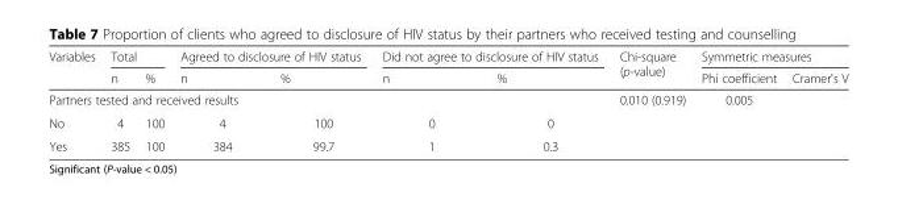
<table><thead><tr><td rowspan="2">Variables</td><td colspan="2">Total</td><td colspan="2">Agreed to disclosure of HIV status</td><td colspan="2">Did not agree to disclosure of HIV status</td><td rowspan="2">Chi-square (p-value)</td><td colspan="2">Symmetric measures</td></tr><tr><td>n</td><td>%</td><td>n</td><td>%</td><td>n</td><td>%</td><td>Phi coefficient</td><td>Cramer&#x27;s V</td></tr></thead><tbody><tr><td colspan="7">Partners tested and received results</td><td>0.010 (0.919)</td><td>0.005</td><td></td></tr><tr><td>No</td><td>4</td><td>100</td><td>4</td><td>100</td><td>0</td><td>0</td><td rowspan="2" colspan="3"></td></tr><tr><td>Yes</td><td>385</td><td>100</td><td>384</td><td>99.7</td><td>1</td><td>0.3</td></tr></tbody></table>